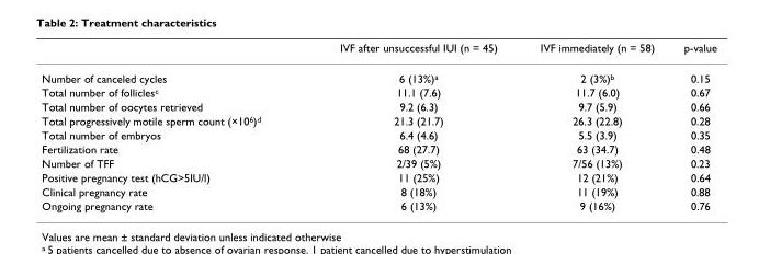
<table><thead><tr><td></td><td>IVF after unsuccessful IUI (n = 45)</td><td>IVF immediately (n = 58)</td><td>p-value</td></tr></thead><tbody><tr><td>Number of canceled cycles</td><td>6 (13%)<sup>a</sup></td><td>2 (3%)<sup>b</sup></td><td>0.15</td></tr><tr><td>Total number of follicles<sup>c</sup></td><td>11.1 (7.6)</td><td>11.7 (6.0)</td><td>0.67</td></tr><tr><td>Total number of oocytes retrieved</td><td>9.2 (6.3)</td><td>9.7 (5.9)</td><td>0.66</td></tr><tr><td>Total progressively motile sperm count (×10<sup>6</sup>)<sup>d</sup></td><td>21.3 (21.7)</td><td>26.3 (22.8)</td><td>0.28</td></tr><tr><td>Total number of embryos</td><td>6.4 (4.6)</td><td>5.5 (3.9)</td><td>0.35</td></tr><tr><td>Fertilization rate</td><td>68 (27.7)</td><td>63 (34.7)</td><td>0.48</td></tr><tr><td>Number of TFF</td><td>2/39 (5%)</td><td>7/56 (13%)</td><td>0.23</td></tr><tr><td>Positive pregnancy test (hCG&gt;5IU/l)</td><td>11 (25%)</td><td>12 (21%)</td><td>0.64</td></tr><tr><td>Clinical pregnancy rate</td><td>8 (18%)</td><td>11 (19%)</td><td>0.88</td></tr><tr><td>Ongoing pregnancy rate</td><td>6 (13%)</td><td>9 (16%)</td><td>0.76</td></tr></tbody></table>